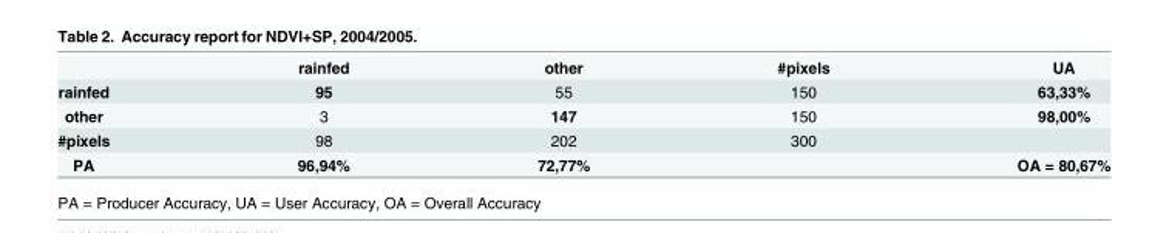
<table><thead><tr><td></td><td>rainfed</td><td>other</td><td>#pixels</td><td>UA</td></tr></thead><tbody><tr><td>rainfed</td><td>95</td><td>55</td><td>150</td><td>63,33%</td></tr><tr><td>other</td><td>3</td><td>147</td><td>150</td><td>98,00%</td></tr><tr><td>#pixels</td><td>98</td><td>202</td><td>300</td><td></td></tr><tr><td>PA</td><td>96,94%</td><td>72,77%</td><td></td><td>OA = 80,67%</td></tr></tbody></table>